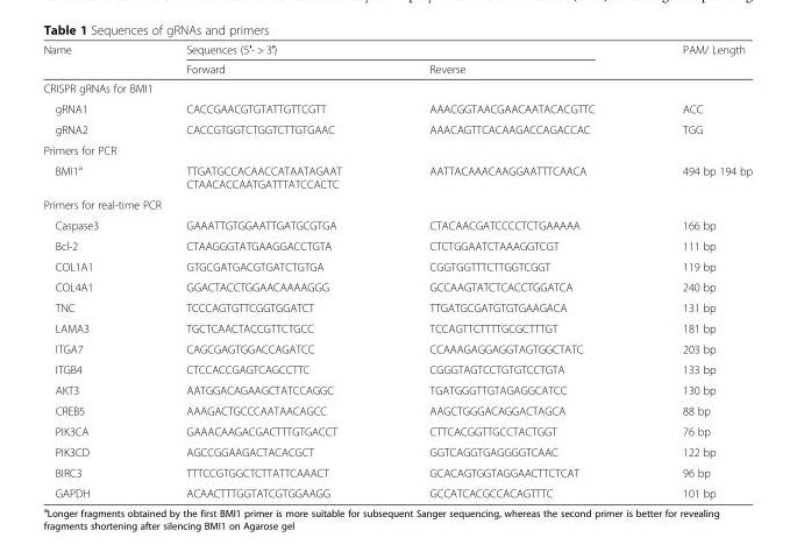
<table><thead><tr><td rowspan="2">Name</td><td colspan="2">Sequences (5′- &gt; 3′)</td><td rowspan="2">PAM/ Length</td></tr><tr><td>Forward</td><td>Reverse</td></tr></thead><tbody><tr><td colspan="4">CRISPR gRNAs for BMI1</td></tr><tr><td>gRNA1</td><td>CACCGAACGTGTATTGTTCGTT</td><td>AAACGGTAACGAACAATACACGTTC</td><td>ACC</td></tr><tr><td>gRNA2</td><td>CACCGTGGTCTGGTCTTGTGAAC</td><td>AAACAGTTCACAAGACCAGACCAC</td><td>TGG</td></tr><tr><td colspan="4">Primers for PCR</td></tr><tr><td>BMI1<sup>a</sup></td><td>TTGATGCCACAACCATAATAGAAT CTAACACCAATGATTTATCCACTC</td><td>AATTACAAACAAGGAATTTCAACA</td><td>494 bp 194 bp</td></tr><tr><td colspan="4">Primers for real-time PCR</td></tr><tr><td>Caspase3</td><td>GAAATTGTGGAATTGATGCGTGA</td><td>CTACAACGATCCCCTCTGAAAAA</td><td>166 bp</td></tr><tr><td>Bcl-2</td><td>CTAAGGGTATGAAGGACCTGTA</td><td>CTCTGGAATCTAAAGGTCGT</td><td>111 bp</td></tr><tr><td>COL1A1</td><td>GTGCGATGACGTGATCTGTGA</td><td>CGGTGGTTTCTTGGTCGGT</td><td>119 bp</td></tr><tr><td>COL4A1</td><td>GGACTACCTGGAACAAAAGGG</td><td>GCCAAGTATCTCACCTGGATCA</td><td>240 bp</td></tr><tr><td>TNC</td><td>TCCCAGTGTTCGGTGGATCT</td><td>TTGATGCGATGTGTGAAGACA</td><td>131 bp</td></tr><tr><td>LAMA3</td><td>TGCTCAACTACCGTTCTGCC</td><td>TCCAGTTCTTTTGCGCTTTGT</td><td>181 bp</td></tr><tr><td>ITGA7</td><td>CAGCGAGTGGACCAGATCC</td><td>CCAAAGAGGAGGTAGTGGCTATC</td><td>203 bp</td></tr><tr><td>ITGB4</td><td>CTCCACCGAGTCAGCCTTC</td><td>CGGGTAGTCCTGTGTCCTGTA</td><td>133 bp</td></tr><tr><td>AKT3</td><td>AATGGACAGAAGCTATCCAGGC</td><td>TGATGGGTTGTAGAGGCATCC</td><td>130 bp</td></tr><tr><td>CREB5</td><td>AAAGACTGCCCAATAACAGCC</td><td>AAGCTGGGACAGGACTAGCA</td><td>88 bp</td></tr><tr><td>PIK3CA</td><td>GAAACAAGACGACTTTGTGACCT</td><td>CTTCACGGTTGCCTACTGGT</td><td>76 bp</td></tr><tr><td>PIK3CD</td><td>AGCCGGAAGACTACACGCT</td><td>GGTCAGGTGAGGGGTCAAC</td><td>122 bp</td></tr><tr><td>BIRC3</td><td>TTTCCGTGGCTCTTATTCAAACT</td><td>GCACAGTGGTAGGAACTTCTCAT</td><td>96 bp</td></tr><tr><td>GAPDH</td><td>ACAACTTTGGTATCGTGGAAGG</td><td>GCCATCACGCCACAGTTTC</td><td>101 bp</td></tr></tbody></table>